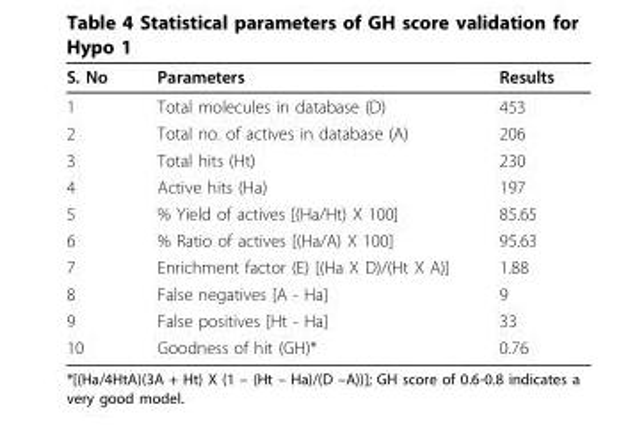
<table><thead><tr><td>S. No</td><td>Parameters</td><td>Results</td></tr></thead><tbody><tr><td>1</td><td>Total molecules in database (D)</td><td>453</td></tr><tr><td>2</td><td>Total no. of actives in database (A)</td><td>206</td></tr><tr><td>3</td><td>Total hits (Ht)</td><td>230</td></tr><tr><td>4</td><td>Active hits (Ha)</td><td>197</td></tr><tr><td>5</td><td>% Yield of actives [(Ha/Ht) X 100]</td><td>85.65</td></tr><tr><td>6</td><td>% Ratio of actives [(Ha/A) X 100]</td><td>95.63</td></tr><tr><td>7</td><td>Enrichment factor (E) [(Ha X D)/(Ht X A)]</td><td>1.88</td></tr><tr><td>8</td><td>False negatives [A - Ha]</td><td>9</td></tr><tr><td>9</td><td>False positives [Ht - Ha]</td><td>33</td></tr><tr><td>10</td><td>Goodness of hit (GH)*</td><td>0.76</td></tr></tbody></table>